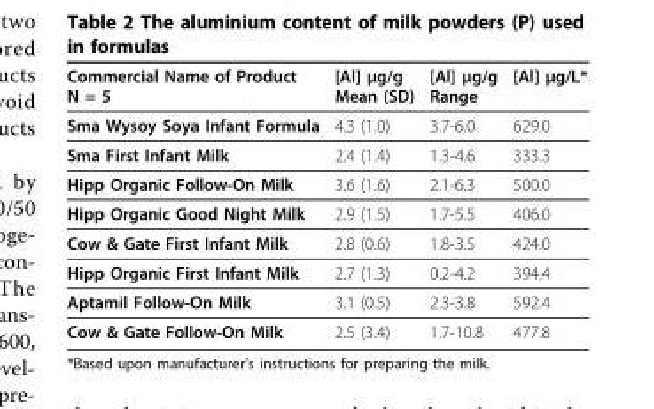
<table><thead><tr><td>Commercial Name of Product N = 5</td><td>[Al] μg/g Mean (SD)</td><td>[Al] μg/g Range</td><td>[Al] μg/L*</td></tr></thead><tbody><tr><td>Sma Wysoy Soya Infant Formula</td><td>4.3 (1.0)</td><td>3.7-6.0</td><td>629.0</td></tr><tr><td>Sma First Infant Milk</td><td>2.4 (1.4)</td><td>1.3-4.6</td><td>333.3</td></tr><tr><td>Hipp Organic Follow-On Milk</td><td>3.6 (1.6)</td><td>2.1-6.3</td><td>500.0</td></tr><tr><td>Hipp Organic Good Night Milk</td><td>2.9 (1.5)</td><td>1.7-5.5</td><td>406.0</td></tr><tr><td>Cow &amp; Gate First Infant Milk</td><td>2.8 (0.6)</td><td>1.8-3.5</td><td>424.0</td></tr><tr><td>Hipp Organic First Infant Milk</td><td>2.7 (1.3)</td><td>0.2-4.2</td><td>394.4</td></tr><tr><td>Aptamil Follow-On Milk</td><td>3.1 (0.5)</td><td>2.3-3.8</td><td>592.4</td></tr><tr><td>Cow &amp; Gate Follow-On Milk</td><td>2.5 (3.4)</td><td>1.7-10.8</td><td>477.8</td></tr></tbody></table>